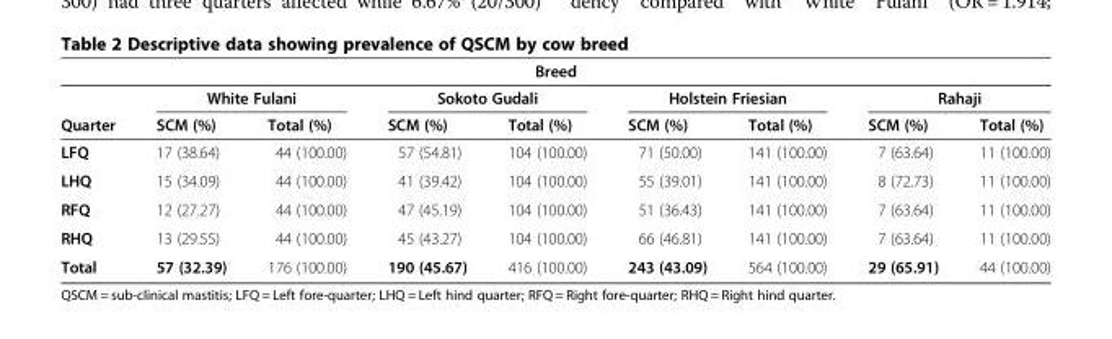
<table><thead><tr><td colspan="9">Breed</td></tr><tr><td rowspan="2">Quarter</td><td colspan="2">White Fulani</td><td colspan="2">Sokoto Gudali</td><td colspan="2">Holstein Friesian</td><td colspan="2">Rahaji</td></tr><tr><td>SCM (%)</td><td>Total (%)</td><td>SCM (%)</td><td>Total (%)</td><td>SCM (%)</td><td>Total (%)</td><td>SCM (%)</td><td>Total (%)</td></tr></thead><tbody><tr><td>LFQ</td><td>17 (38.64)</td><td>44 (100.00)</td><td>57 (54.81)</td><td>104 (100.00)</td><td>71 (50.00)</td><td>141 (100.00)</td><td>7 (63.64)</td><td>11 (100.00)</td></tr><tr><td>LHQ</td><td>15 (34.09)</td><td>44 (100.00)</td><td>41 (39.42)</td><td>104 (100.00)</td><td>55 (39.01)</td><td>141 (100.00)</td><td>8 (72.73)</td><td>11 (100.00)</td></tr><tr><td>RFQ</td><td>12 (27.27)</td><td>44 (100.00)</td><td>47 (45.19)</td><td>104 (100.00)</td><td>51 (36.43)</td><td>141 (100.00)</td><td>7 (63.64)</td><td>11 (100.00)</td></tr><tr><td>RHQ</td><td>13 (29.55)</td><td>44 (100.00)</td><td>45 (43.27)</td><td>104 (100.00)</td><td>66 (46.81)</td><td>141 (100.00)</td><td>7 (63.64)</td><td>11 (100.00)</td></tr><tr><td>Total</td><td>57 (32.39)</td><td>176 (100.00)</td><td>190 (45.67)</td><td>416 (100.00)</td><td>243 (43.09)</td><td>564 (100.00)</td><td>29 (65.91)</td><td>44 (100.00)</td></tr></tbody></table>